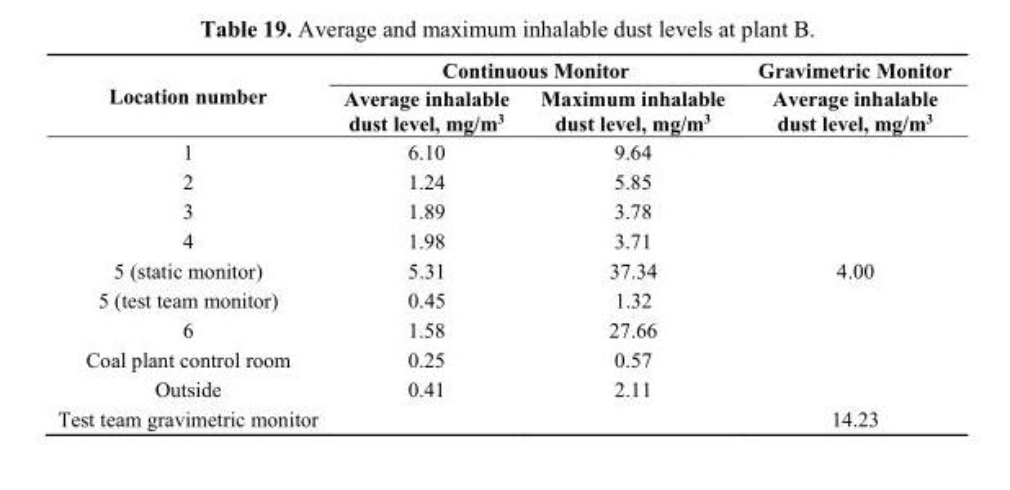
<table><thead><tr><td rowspan="2">Location number</td><td colspan="2">Continuous Monitor</td><td rowspan="2">Gravimetric Monitor Average inhalable dust level, mg/m<sup>3</sup></td></tr><tr><td>Average inhalable dust level, mg/m<sup>3</sup></td><td>Maximum inhalable dust level, mg/m<sup>3</sup></td></tr></thead><tbody><tr><td>1</td><td>6.10</td><td>9.64</td><td></td></tr><tr><td>2</td><td>1.24</td><td>5.85</td><td></td></tr><tr><td>3</td><td>1.89</td><td>3.78</td><td></td></tr><tr><td>4</td><td>1.98</td><td>3.71</td><td></td></tr><tr><td>5 (static monitor)</td><td>5.31</td><td>37.34</td><td>4.00</td></tr><tr><td>5 (test team monitor)</td><td>0.45</td><td>1.32</td><td></td></tr><tr><td>6</td><td>1.58</td><td>27.66</td><td></td></tr><tr><td>Coal plant control room</td><td>0.25</td><td>0.57</td><td></td></tr><tr><td>Outside</td><td>0.41</td><td>2.11</td><td></td></tr><tr><td>Test team gravimetric monitor</td><td></td><td></td><td>14.23</td></tr></tbody></table>